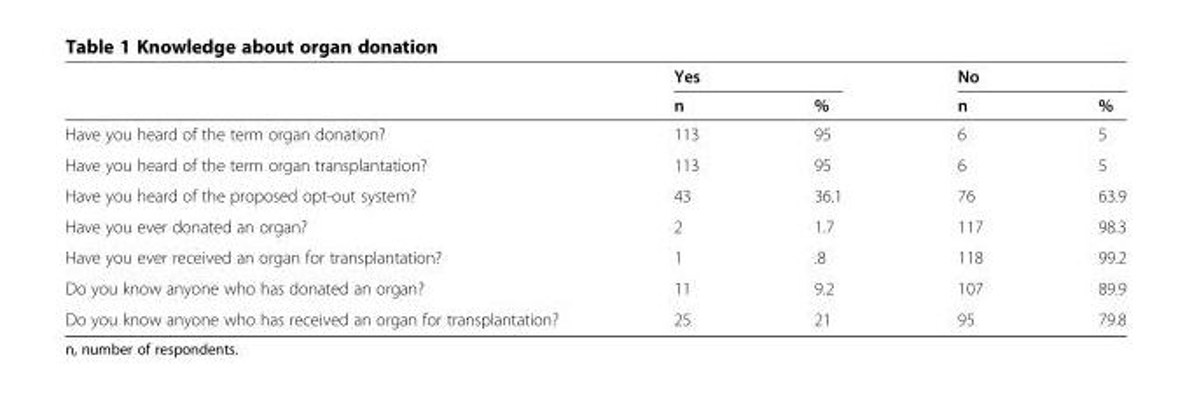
<table><thead><tr><td rowspan="2"></td><td colspan="2">Yes</td><td colspan="2">No</td></tr><tr><td>n</td><td>%</td><td>n</td><td>%</td></tr></thead><tbody><tr><td>Have you heard of the term organ donation?</td><td>113</td><td>95</td><td>6</td><td>5</td></tr><tr><td>Have you heard of the term organ transplantation?</td><td>113</td><td>95</td><td>6</td><td>5</td></tr><tr><td>Have you heard of the proposed opt-out system?</td><td>43</td><td>36.1</td><td>76</td><td>63.9</td></tr><tr><td>Have you ever donated an organ?</td><td>2</td><td>1.7</td><td>117</td><td>98.3</td></tr><tr><td>Have you ever received an organ for transplantation?</td><td>1</td><td>.8</td><td>118</td><td>99.2</td></tr><tr><td>Do you know anyone who has donated an organ?</td><td>11</td><td>9.2</td><td>107</td><td>89.9</td></tr><tr><td>Do you know anyone who has received an organ for transplantation?</td><td>25</td><td>21</td><td>95</td><td>79.8</td></tr></tbody></table>